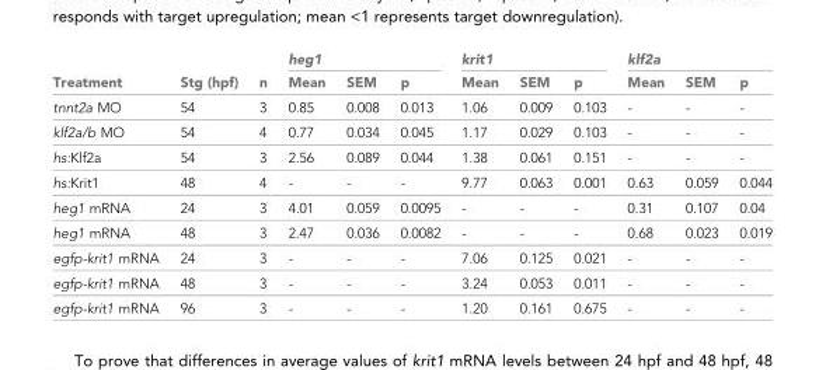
<table><thead><tr><td rowspan="2">Treatment</td><td rowspan="2">Stg (hpf)</td><td rowspan="2">n</td><td colspan="3">heg1</td><td colspan="3">krit1</td><td colspan="3">klf2a</td></tr><tr><td>Mean</td><td>SEM</td><td>p</td><td>Mean</td><td>SEM</td><td>p</td><td>Mean</td><td>SEM</td><td>p</td></tr></thead><tbody><tr><td>tnnt2a MO</td><td>54</td><td>3</td><td>0.85</td><td>0.008</td><td>0.013</td><td>1.06</td><td>0.009</td><td>0.103</td><td>-</td><td>-</td><td>-</td></tr><tr><td>klf2a/b MO</td><td>54</td><td>4</td><td>0.77</td><td>0.034</td><td>0.045</td><td>1.17</td><td>0.029</td><td>0.103</td><td>-</td><td>-</td><td>-</td></tr><tr><td>hs:Klf2a</td><td>54</td><td>3</td><td>2.56</td><td>0.089</td><td>0.044</td><td>1.38</td><td>0.061</td><td>0.151</td><td>-</td><td>-</td><td>-</td></tr><tr><td>hs:Krit1</td><td>48</td><td>4</td><td>-</td><td>-</td><td>-</td><td>9.77</td><td>0.063</td><td>0.001</td><td>0.63</td><td>0.059</td><td>0.044</td></tr><tr><td>heg1 mRNA</td><td>24</td><td>3</td><td>4.01</td><td>0.059</td><td>0.0095</td><td>-</td><td>-</td><td>-</td><td>0.31</td><td>0.107</td><td>0.04</td></tr><tr><td>heg1 mRNA</td><td>48</td><td>3</td><td>2.47</td><td>0.036</td><td>0.0082</td><td>-</td><td>-</td><td>-</td><td>0.68</td><td>0.023</td><td>0.019</td></tr><tr><td>egfp-krit1 mRNA</td><td>24</td><td>3</td><td>-</td><td>-</td><td>-</td><td>7.06</td><td>0.125</td><td>0.021</td><td>-</td><td>-</td><td>-</td></tr><tr><td>egfp-krit1 mRNA</td><td>48</td><td>3</td><td>-</td><td>-</td><td>-</td><td>3.24</td><td>0.053</td><td>0.011</td><td>-</td><td>-</td><td>-</td></tr><tr><td>egfp-krit1 mRNA</td><td>96</td><td>3</td><td>-</td><td>-</td><td>-</td><td>1.20</td><td>0.161</td><td>0.675</td><td>-</td><td>-</td><td>-</td></tr></tbody></table>